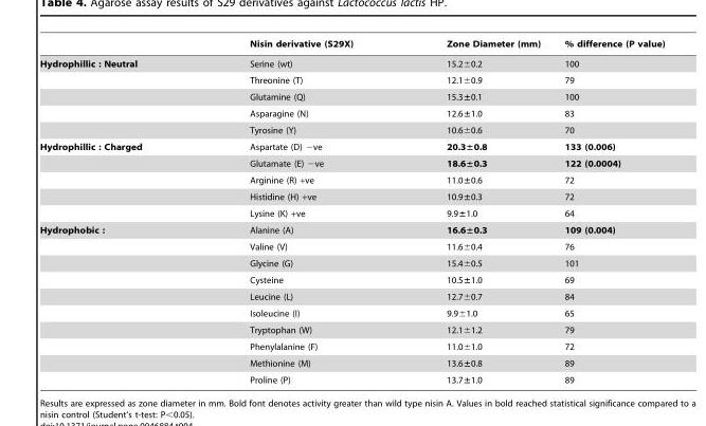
<table><thead><tr><td></td><td>Nisin derivative (S29X)</td><td>Zone Diameter (mm)</td><td>% difference (P value)</td></tr></thead><tbody><tr><td rowspan="5">Hydrophillic : Neutral</td><td>Serine (wt)</td><td>15.2±0.2</td><td>100</td></tr><tr><td>Threonine (T)</td><td>12.1±0.9</td><td>79</td></tr><tr><td>Glutamine (Q)</td><td>15.3±0.1</td><td>100</td></tr><tr><td>Asparagine (N)</td><td>12.6±1.0</td><td>83</td></tr><tr><td>Tyrosine (Y)</td><td>10.6±0.6</td><td>70</td></tr><tr><td rowspan="5">Hydrophillic : Charged</td><td>Aspartate (D) −ve</td><td>20.3±0.8</td><td>133 (0.006)</td></tr><tr><td>Glutamate (E) −ve</td><td>18.6±0.3</td><td>122 (0.0004)</td></tr><tr><td>Arginine (R) +ve</td><td>11.0±0.6</td><td>72</td></tr><tr><td>Histidine (H) +ve</td><td>10.9±0.3</td><td>72</td></tr><tr><td>Lysine (K) +ve</td><td>9.9±1.0</td><td>64</td></tr><tr><td rowspan="10">Hydrophobic :</td><td>Alanine (A)</td><td>16.6±0.3</td><td>109 (0.004)</td></tr><tr><td>Valine (V)</td><td>11.6±0.4</td><td>76</td></tr><tr><td>Glycine (G)</td><td>15.4±0.5</td><td>101</td></tr><tr><td>Cysteine</td><td>10.5±1.0</td><td>69</td></tr><tr><td>Leucine (L)</td><td>12.7±0.7</td><td>84</td></tr><tr><td>Isoleucine (I)</td><td>9.9±1.0</td><td>65</td></tr><tr><td>Tryptophan (W)</td><td>12.1±1.2</td><td>79</td></tr><tr><td>Phenylalanine (F)</td><td>11.0±1.0</td><td>72</td></tr><tr><td>Methionine (M)</td><td>13.6±0.8</td><td>89</td></tr><tr><td>Proline (P)</td><td>13.7±1.0</td><td>89</td></tr></tbody></table>